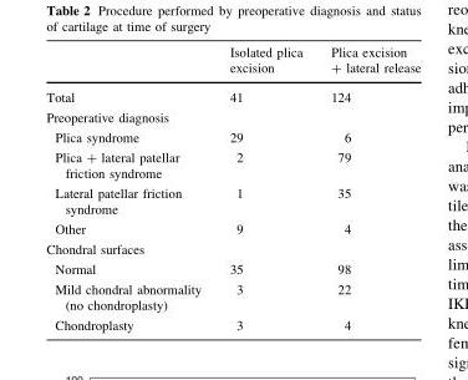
<table><thead><tr><td></td><td>Isolated plica excision</td><td>Plica excision + lateral release</td></tr></thead><tbody><tr><td>Total</td><td>41</td><td>124</td></tr><tr><td colspan="3">Preoperative diagnosis</td></tr><tr><td>Plica syndrome</td><td>29</td><td>6</td></tr><tr><td>Plica + lateral patellar friction syndrome</td><td>2</td><td>79</td></tr><tr><td>Lateral patellar friction syndrome</td><td>1</td><td>35</td></tr><tr><td>Other</td><td>9</td><td>4</td></tr><tr><td colspan="3">Chondral surfaces</td></tr><tr><td>Normal</td><td>35</td><td>98</td></tr><tr><td>Mild chondral abnormality (no chondroplasty)</td><td>3</td><td>22</td></tr><tr><td>Chondroplasty</td><td>3</td><td>4</td></tr></tbody></table>